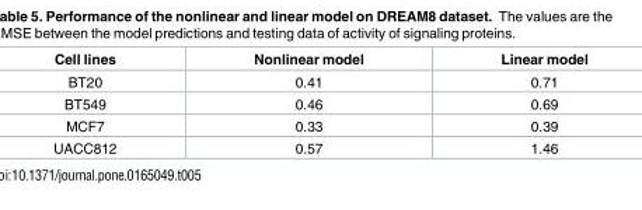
<table><thead><tr><td>Cell lines</td><td>Nonlinear model</td><td>Linear model</td></tr></thead><tbody><tr><td>BT20</td><td>0.41</td><td>0.71</td></tr><tr><td>BT549</td><td>0.46</td><td>0.69</td></tr><tr><td>MCF7</td><td>0.33</td><td>0.39</td></tr><tr><td>UACC812</td><td>0.57</td><td>1.46</td></tr></tbody></table>